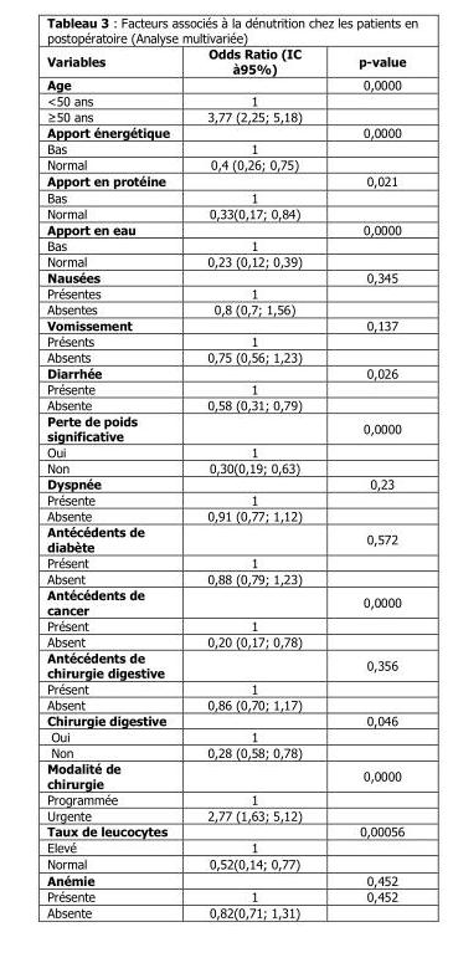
<table><thead><tr><td>Variables</td><td>Odds Ratio (IC à95%)</td><td>p-value</td></tr></thead><tbody><tr><td>Age</td><td></td><td>0,0000</td></tr><tr><td>&lt;50 ans</td><td>1</td><td></td></tr><tr><td>≥50 ans</td><td>3,77 (2,25; 5,18)</td><td></td></tr><tr><td>Apport énergétique</td><td></td><td>0,0000</td></tr><tr><td>Bas</td><td>1</td><td></td></tr><tr><td>Normal</td><td>0,4 (0,26; 0,75)</td><td></td></tr><tr><td>Apport en protéine</td><td></td><td>0,021</td></tr><tr><td>Bas</td><td>1</td><td></td></tr><tr><td>Normal</td><td>0,33(0,17; 0,84)</td><td></td></tr><tr><td>Apport en eau</td><td></td><td>0,0000</td></tr><tr><td>Bas</td><td>1</td><td></td></tr><tr><td>Normal</td><td>0,23 (0,12; 0,39)</td><td></td></tr><tr><td>Nausées</td><td></td><td>0,345</td></tr><tr><td>Présentes</td><td>1</td><td></td></tr><tr><td>Absentes</td><td>0,8 (0,7; 1,56)</td><td></td></tr><tr><td>Vomissement</td><td></td><td>0,137</td></tr><tr><td>Présents</td><td>1</td><td></td></tr><tr><td>Absents</td><td>0,75 (0,56; 1,23)</td><td></td></tr><tr><td>Diarrhée</td><td></td><td>0,026</td></tr><tr><td>Présente</td><td>1</td><td></td></tr><tr><td>Absente</td><td>0,58 (0,31; 0,79)</td><td></td></tr><tr><td>Perte de poids significative</td><td></td><td>0,0000</td></tr><tr><td>Oui</td><td>1</td><td></td></tr><tr><td>Non</td><td>0,30(0,19; 0,63)</td><td></td></tr><tr><td>Dyspnée</td><td></td><td>0,23</td></tr><tr><td>Présente</td><td>1</td><td></td></tr><tr><td>Absente</td><td>0,91 (0,77; 1,12)</td><td></td></tr><tr><td>Antécédents de diabète</td><td></td><td>0,572</td></tr><tr><td>Présent</td><td>1</td><td></td></tr><tr><td>Absent</td><td>0,88 (0,79; 1,23)</td><td></td></tr><tr><td>Antécédents de cancer</td><td></td><td>0,0000</td></tr><tr><td>Présent</td><td>1</td><td></td></tr><tr><td>Absent</td><td>0,20 (0,17; 0,78)</td><td></td></tr><tr><td>Antécédents de chirurgie digestive</td><td></td><td>0,356</td></tr><tr><td>Présent</td><td>1</td><td></td></tr><tr><td>Absent</td><td>0,86 (0,70; 1,17)</td><td></td></tr><tr><td>Chirurgie digestive</td><td></td><td>0,046</td></tr><tr><td>Oui</td><td>1</td><td></td></tr><tr><td>Non</td><td>0,28 (0,58; 0,78)</td><td></td></tr><tr><td>Modalité de chirurgie</td><td></td><td>0,0000</td></tr><tr><td>Programmée</td><td>1</td><td></td></tr><tr><td>Urgente</td><td>2,77 (1,63; 5,12)</td><td></td></tr><tr><td>Taux de leucocytes</td><td></td><td>0,00056</td></tr><tr><td>Elevé</td><td>1</td><td></td></tr><tr><td>Normal</td><td>0,52(0,14; 0,77)</td><td></td></tr><tr><td>Anémie</td><td></td><td>0,452</td></tr><tr><td>Présente</td><td>1</td><td>0,452</td></tr><tr><td>Absente</td><td>0,82(0,71; 1,31)</td><td></td></tr></tbody></table>